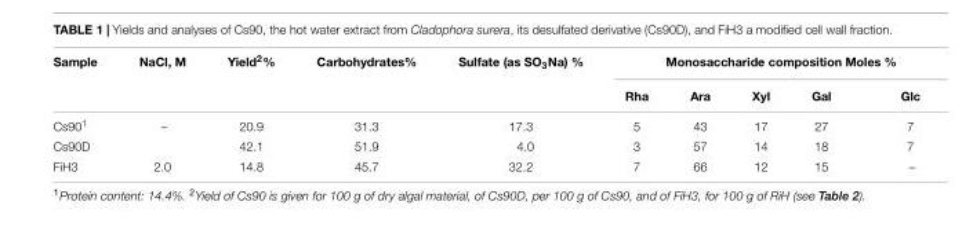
<table><thead><tr><td rowspan="2">Sample</td><td rowspan="2">NaCl, M</td><td rowspan="2">Yield<sup>2</sup>%</td><td rowspan="2">Carbohydrates%</td><td rowspan="2">Sulfate (as SO<sub>3</sub>Na) %</td><td colspan="5">Monosaccharide composition Moles %</td></tr><tr><td>Rha</td><td>Ara</td><td>Xyl</td><td>Gal</td><td>Glc</td></tr></thead><tbody><tr><td>Cs90<sup>1</sup></td><td>–</td><td>20.9</td><td>31.3</td><td>17.3</td><td>5</td><td>43</td><td>17</td><td>27</td><td>7</td></tr><tr><td>Cs90D</td><td></td><td>42.1</td><td>51.9</td><td>4.0</td><td>3</td><td>57</td><td>14</td><td>18</td><td>7</td></tr><tr><td>FiH3</td><td>2.0</td><td>14.8</td><td>45.7</td><td>32.2</td><td>7</td><td>66</td><td>12</td><td>15</td><td>–</td></tr></tbody></table>